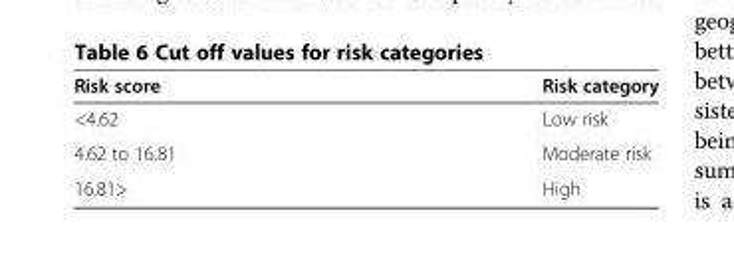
<table><thead><tr><td>Risk score</td><td>Risk category</td></tr></thead><tbody><tr><td>&lt;4.62</td><td>Low risk</td></tr><tr><td>4.62 to 16.81</td><td>Moderate risk</td></tr><tr><td>16.81&gt;</td><td>High</td></tr></tbody></table>